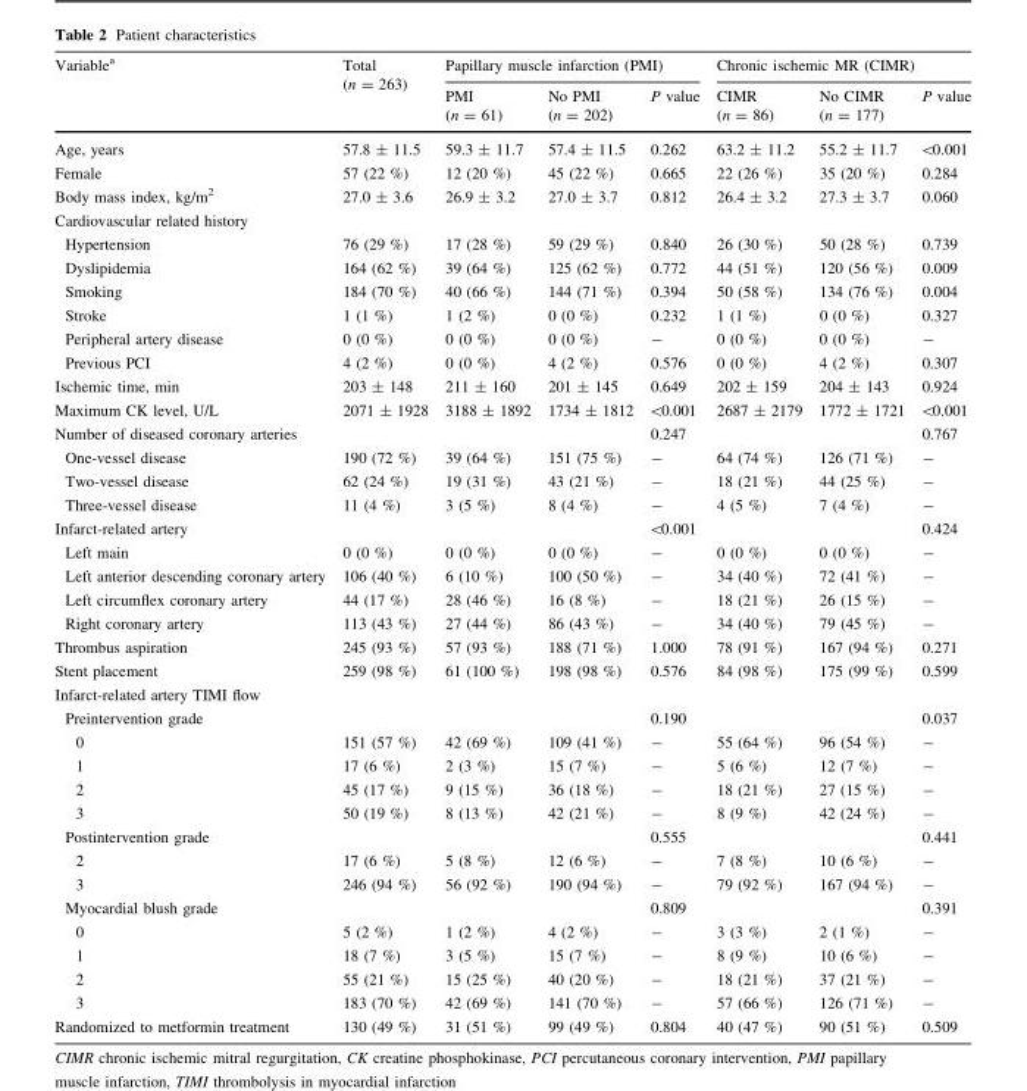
<table><thead><tr><td rowspan="2">Variable<sup>a</sup></td><td rowspan="2">Total (n = 263)</td><td colspan="3">Papillary muscle infarction (PMI)</td><td colspan="3">Chronic ischemic MR (CIMR)</td></tr><tr><td>PMI (n = 61)</td><td>No PMI (n = 202)</td><td>P value</td><td>CIMR (n = 86)</td><td>No CIMR (n = 177)</td><td>P value</td></tr></thead><tbody><tr><td>Age, years</td><td>57.8 ± 11.5</td><td>59.3 ± 11.7</td><td>57.4 ± 11.5</td><td>0.262</td><td>63.2 ± 11.2</td><td>55.2 ± 11.7</td><td>&lt;0.001</td></tr><tr><td>Female</td><td>57 (22 %)</td><td>12 (20 %)</td><td>45 (22 %)</td><td>0.665</td><td>22 (26 %)</td><td>35 (20 %)</td><td>0.284</td></tr><tr><td>Body mass index, kg/m<sup>2</sup></td><td>27.0 ± 3.6</td><td>26.9 ± 3.2</td><td>27.0 ± 3.7</td><td>0.812</td><td>26.4 ± 3.2</td><td>27.3 ± 3.7</td><td>0.060</td></tr><tr><td colspan="8">Cardiovascular related history</td></tr><tr><td>Hypertension</td><td>76 (29 %)</td><td>17 (28 %)</td><td>59 (29 %)</td><td>0.840</td><td>26 (30 %)</td><td>50 (28 %)</td><td>0.739</td></tr><tr><td>Dyslipidemia</td><td>164 (62 %)</td><td>39 (64 %)</td><td>125 (62 %)</td><td>0.772</td><td>44 (51 %)</td><td>120 (56 %)</td><td>0.009</td></tr><tr><td>Smoking</td><td>184 (70 %)</td><td>40 (66 %)</td><td>144 (71 %)</td><td>0.394</td><td>50 (58 %)</td><td>134 (76 %)</td><td>0.004</td></tr><tr><td>Stroke</td><td>1 (1 %)</td><td>1 (2 %)</td><td>0 (0 %)</td><td>0.232</td><td>1 (1 %)</td><td>0 (0 %)</td><td>0.327</td></tr><tr><td>Peripheral artery disease</td><td>0 (0 %)</td><td>0 (0 %)</td><td>0 (0 %)</td><td>-</td><td>0 (0 %)</td><td>0 (0 %)</td><td>-</td></tr><tr><td>Previous PCI</td><td>4 (2 %)</td><td>0 (0 %)</td><td>4 (2 %)</td><td>0.576</td><td>0 (0 %)</td><td>4 (2 %)</td><td>0.307</td></tr><tr><td>Ischemic time, min</td><td>203 ± 148</td><td>211 ± 160</td><td>201 ± 145</td><td>0.649</td><td>202 ± 159</td><td>204 ± 143</td><td>0.924</td></tr><tr><td>Maximum CK level, U/L</td><td>2071 ± 1928</td><td>3188 ± 1892</td><td>1734 ± 1812</td><td>&lt;0.001</td><td>2687 ± 2179</td><td>1772 ± 1721</td><td>&lt;0.001</td></tr><tr><td>Number of diseased coronary arteries</td><td></td><td></td><td></td><td>0.247</td><td></td><td></td><td>0.767</td></tr><tr><td>One-vessel disease</td><td>190 (72 %)</td><td>39 (64 %)</td><td>151 (75 %)</td><td>-</td><td>64 (74 %)</td><td>126 (71 %)</td><td>-</td></tr><tr><td>Two-vessel disease</td><td>62 (24 %)</td><td>19 (31 %)</td><td>43 (21 %)</td><td>-</td><td>18 (21 %)</td><td>44 (25 %)</td><td>-</td></tr><tr><td>Three-vessel disease</td><td>11 (4 %)</td><td>3 (5 %)</td><td>8 (4 %)</td><td>-</td><td>4 (5 %)</td><td>7 (4 %)</td><td>-</td></tr><tr><td>Infarct-related artery</td><td></td><td></td><td></td><td>&lt;0.001</td><td></td><td></td><td>0.424</td></tr><tr><td>Left main</td><td>0 (0 %)</td><td>0 (0 %)</td><td>0 (0 %)</td><td>-</td><td>0 (0 %)</td><td>0 (0 %)</td><td>-</td></tr><tr><td>Left anterior descending coronary artery</td><td>106 (40 %)</td><td>6 (10 %)</td><td>100 (50 %)</td><td>-</td><td>34 (40 %)</td><td>72 (41 %)</td><td>-</td></tr><tr><td>Left circumflex coronary artery</td><td>44 (17 %)</td><td>28 (46 %)</td><td>16 (8 %)</td><td>-</td><td>18 (21 %)</td><td>26 (15 %)</td><td>-</td></tr><tr><td>Right coronary artery</td><td>113 (43 %)</td><td>27 (44 %)</td><td>86 (43 %)</td><td>-</td><td>34 (40 %)</td><td>79 (45 %)</td><td>-</td></tr><tr><td>Thrombus aspiration</td><td>245 (93 %)</td><td>57 (93 %)</td><td>188 (71 %)</td><td>1.000</td><td>78 (91 %)</td><td>167 (94 %)</td><td>0.271</td></tr><tr><td>Stent placement</td><td>259 (98 %)</td><td>61 (100 %)</td><td>198 (98 %)</td><td>0.576</td><td>84 (98 %)</td><td>175 (99 %)</td><td>0.599</td></tr><tr><td colspan="8">Infarct-related artery TIMI flow</td></tr><tr><td>Preintervention grade</td><td></td><td></td><td></td><td>0.190</td><td></td><td></td><td>0.037</td></tr><tr><td>0</td><td>151 (57 %)</td><td>42 (69 %)</td><td>109 (41 %)</td><td>-</td><td>55 (64 %)</td><td>96 (54 %)</td><td>-</td></tr><tr><td>1</td><td>17 (6 %)</td><td>2 (3 %)</td><td>15 (7 %)</td><td>-</td><td>5 (6 %)</td><td>12 (7 %)</td><td>-</td></tr><tr><td>2</td><td>45 (17 %)</td><td>9 (15 %)</td><td>36 (18 %)</td><td>-</td><td>18 (21 %)</td><td>27 (15 %)</td><td>-</td></tr><tr><td>3</td><td>50 (19 %)</td><td>8 (13 %)</td><td>42 (21 %)</td><td>-</td><td>8 (9 %)</td><td>42 (24 %)</td><td>-</td></tr><tr><td>Postintervention grade</td><td></td><td></td><td></td><td>0.555</td><td></td><td></td><td>0.441</td></tr><tr><td>2</td><td>17 (6 %)</td><td>5 (8 %)</td><td>12 (6 %)</td><td>-</td><td>7 (8 %)</td><td>10 (6 %)</td><td>-</td></tr><tr><td>3</td><td>246 (94 %)</td><td>56 (92 %)</td><td>190 (94 %)</td><td>-</td><td>79 (92 %)</td><td>167 (94 %)</td><td>-</td></tr><tr><td>Myocardial blush grade</td><td></td><td></td><td></td><td>0.809</td><td></td><td></td><td>0.391</td></tr><tr><td>0</td><td>5 (2 %)</td><td>1 (2 %)</td><td>4 (2 %)</td><td>-</td><td>3 (3 %)</td><td>2 (1 %)</td><td>-</td></tr><tr><td>1</td><td>18 (7 %)</td><td>3 (5 %)</td><td>15 (7 %)</td><td>-</td><td>8 (9 %)</td><td>10 (6 %)</td><td>-</td></tr><tr><td>2</td><td>55 (21 %)</td><td>15 (25 %)</td><td>40 (20 %)</td><td>-</td><td>18 (21 %)</td><td>37 (21 %)</td><td>-</td></tr><tr><td>3</td><td>183 (70 %)</td><td>42 (69 %)</td><td>141 (70 %)</td><td>-</td><td>57 (66 %)</td><td>126 (71 %)</td><td>-</td></tr><tr><td>Randomized to metformin treatment</td><td>130 (49 %)</td><td>31 (51 %)</td><td>99 (49 %)</td><td>0.804</td><td>40 (47 %)</td><td>90 (51 %)</td><td>0.509</td></tr></tbody></table>